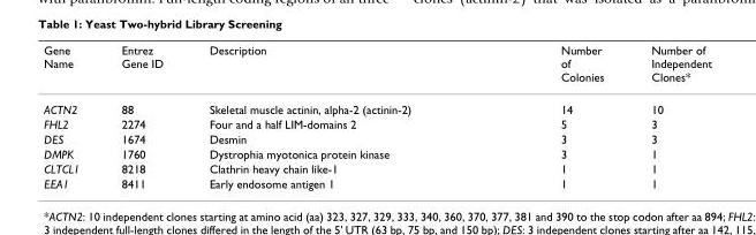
<table><thead><tr><td>Gene Name</td><td>Entrez Gene ID</td><td>Description</td><td>Number of Colonies</td><td>Number of Independent Clones*</td></tr></thead><tbody><tr><td>ACTN2</td><td>88</td><td>Skeletal muscle actinin, alpha-2 (actinin-2)</td><td>14</td><td>10</td></tr><tr><td>FHL2</td><td>2274</td><td>Four and a half LIM-domains 2</td><td>5</td><td>3</td></tr><tr><td>DES</td><td>1674</td><td>Desmin</td><td>3</td><td>3</td></tr><tr><td>DMPK</td><td>1760</td><td>Dystrophia myotonica protein kinase</td><td>3</td><td>1</td></tr><tr><td>CLTCL1</td><td>8218</td><td>Clathrin heavy chain like-1</td><td>1</td><td>1</td></tr><tr><td>EEA1</td><td>8411</td><td>Early endosome antigen 1</td><td>1</td><td>1</td></tr></tbody></table>